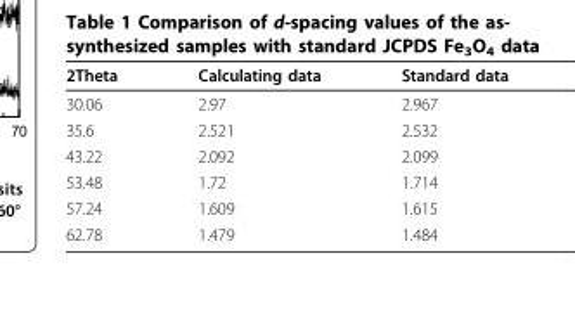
<table><thead><tr><td>2Theta</td><td>Calculating data</td><td>Standard data</td></tr></thead><tbody><tr><td>30.06</td><td>2.97</td><td>2.967</td></tr><tr><td>35.6</td><td>2.521</td><td>2.532</td></tr><tr><td>43.22</td><td>2.092</td><td>2.099</td></tr><tr><td>53.48</td><td>1.72</td><td>1.714</td></tr><tr><td>57.24</td><td>1.609</td><td>1.615</td></tr><tr><td>62.78</td><td>1.479</td><td>1.484</td></tr></tbody></table>